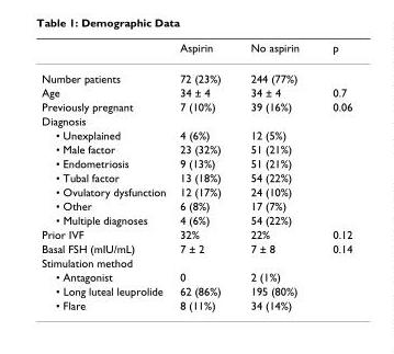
<table><thead><tr><td></td><td>Aspirin</td><td>No aspirin</td><td>p</td></tr></thead><tbody><tr><td>Number patients</td><td>72 (23%)</td><td>244 (77%)</td><td></td></tr><tr><td>Age</td><td>34 ± 4</td><td>34 ± 4</td><td>0.7</td></tr><tr><td>Previously pregnant</td><td>7 (10%)</td><td>39 (16%)</td><td>0.06</td></tr><tr><td colspan="4">Diagnosis</td></tr><tr><td>• Unexplained</td><td>4 (6%)</td><td>12 (5%)</td><td></td></tr><tr><td>• Male factor</td><td>23 (32%)</td><td>51 (21%)</td><td></td></tr><tr><td>• Endometriosis</td><td>9 (13%)</td><td>51 (21%)</td><td></td></tr><tr><td>• Tubal factor</td><td>13 (18%)</td><td>54 (22%)</td><td></td></tr><tr><td>• Ovulatory dysfunction</td><td>12 (17%)</td><td>24 (10%)</td><td></td></tr><tr><td>• Other</td><td>6 (8%)</td><td>17 (7%)</td><td></td></tr><tr><td>• Multiple diagnoses</td><td>4 (6%)</td><td>54 (22%)</td><td></td></tr><tr><td>Prior IVF</td><td>32%</td><td>22%</td><td>0.12</td></tr><tr><td>Basal FSH (mIU/mL)</td><td>7 ± 2</td><td>7 ± 8</td><td>0.14</td></tr><tr><td colspan="4">Stimulation method</td></tr><tr><td>• Antagonist</td><td>0</td><td>2 (1%)</td><td></td></tr><tr><td>• Long luteal leuprolide</td><td>62 (86%)</td><td>195 (80%)</td><td></td></tr><tr><td>• Flare</td><td>8 (11%)</td><td>34 (14%)</td><td></td></tr></tbody></table>